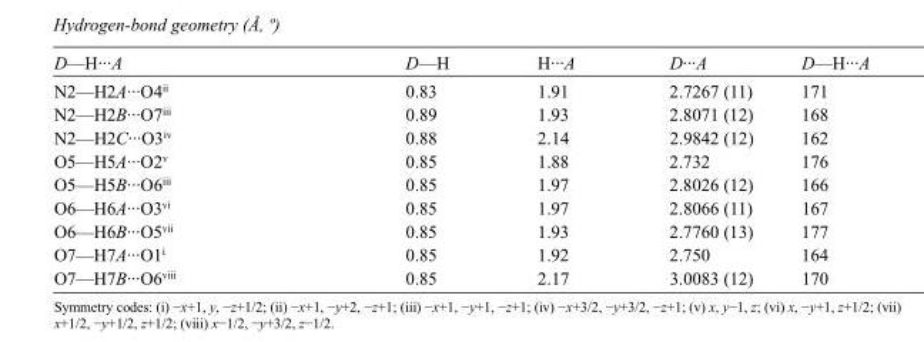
<table><tbody><tr><td>D—H···A</td><td>D—H</td><td>H···A</td><td>D···A</td><td>D—H···A</td></tr><tr><td>N2—H2A···O4<sup>ii</sup></td><td>0.83</td><td>1.91</td><td>2.7267 (11)</td><td>171</td></tr><tr><td>N2—H2B···O7<sup>iii</sup></td><td>0.89</td><td>1.93</td><td>2.8071 (12)</td><td>168</td></tr><tr><td>N2—H2C···O3<sup>iv</sup></td><td>0.88</td><td>2.14</td><td>2.9842 (12)</td><td>162</td></tr><tr><td>O5—H5A···O2<sup>v</sup></td><td>0.85</td><td>1.88</td><td>2.732</td><td>176</td></tr><tr><td>O5—H5B···O6<sup>iii</sup></td><td>0.85</td><td>1.97</td><td>2.8026 (12)</td><td>166</td></tr><tr><td>O6—H6A···O3<sup>vi</sup></td><td>0.85</td><td>1.97</td><td>2.8066 (11)</td><td>167</td></tr><tr><td>O6—H6B···O5<sup>vii</sup></td><td>0.85</td><td>1.93</td><td>2.7760 (13)</td><td>177</td></tr><tr><td>O7—H7A···O1<sup>i</sup></td><td>0.85</td><td>1.92</td><td>2.750</td><td>164</td></tr><tr><td>O7—H7B···O6<sup>viii</sup></td><td>0.85</td><td>2.17</td><td>3.0083 (12)</td><td>170</td></tr></tbody></table>